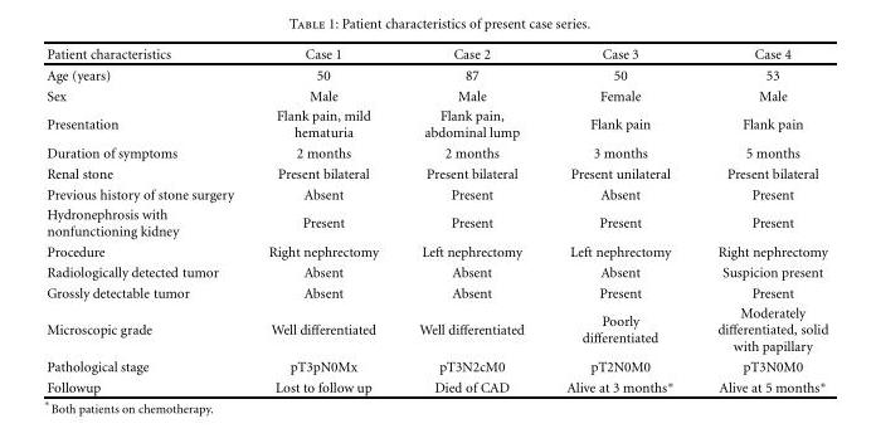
<table><thead><tr><td>Patient characteristics</td><td>Case 1</td><td>Case 2</td><td>Case 3</td><td>Case 4</td></tr></thead><tbody><tr><td>Age (years)</td><td>50</td><td>87</td><td>50</td><td>53</td></tr><tr><td>Sex</td><td>Male</td><td>Male</td><td>Female</td><td>Male</td></tr><tr><td>Presentation</td><td>Flank pain, mild hematuria</td><td>Flank pain, abdominal lump</td><td>Flank pain</td><td>Flank pain</td></tr><tr><td>Duration of symptoms</td><td>2 months</td><td>2 months</td><td>3 months</td><td>5 months</td></tr><tr><td>Renal stone</td><td>Present bilateral</td><td>Present bilateral</td><td>Present unilateral</td><td>Present bilateral</td></tr><tr><td>Previous history of stone surgery</td><td>Absent</td><td>Present</td><td>Absent</td><td>Present</td></tr><tr><td>Hydronephrosis with nonfunctioning kidney</td><td>Present</td><td>Present</td><td>Present</td><td>Present</td></tr><tr><td>Procedure</td><td>Right nephrectomy</td><td>Left nephrectomy</td><td>Left nephrectomy</td><td>Right nephrectomy</td></tr><tr><td>Radiologically detected tumor</td><td>Absent</td><td>Absent</td><td>Absent</td><td>Suspicion present</td></tr><tr><td>Grossly detectable tumor</td><td>Absent</td><td>Absent</td><td>Present</td><td>Present</td></tr><tr><td>Microscopic grade</td><td>Well differentiated</td><td>Well differentiated</td><td>Poorly differentiated</td><td>Moderately differentiated, solid with papillary</td></tr><tr><td>Pathological stage</td><td>pT3pN0Mx</td><td>pT3N2cM0</td><td>pT2N0M0</td><td>pT3N0M0</td></tr><tr><td>Followup</td><td>Lost to follow up</td><td>Died of CAD</td><td>Alive at 3 months∗</td><td>Alive at 5 months∗</td></tr></tbody></table>